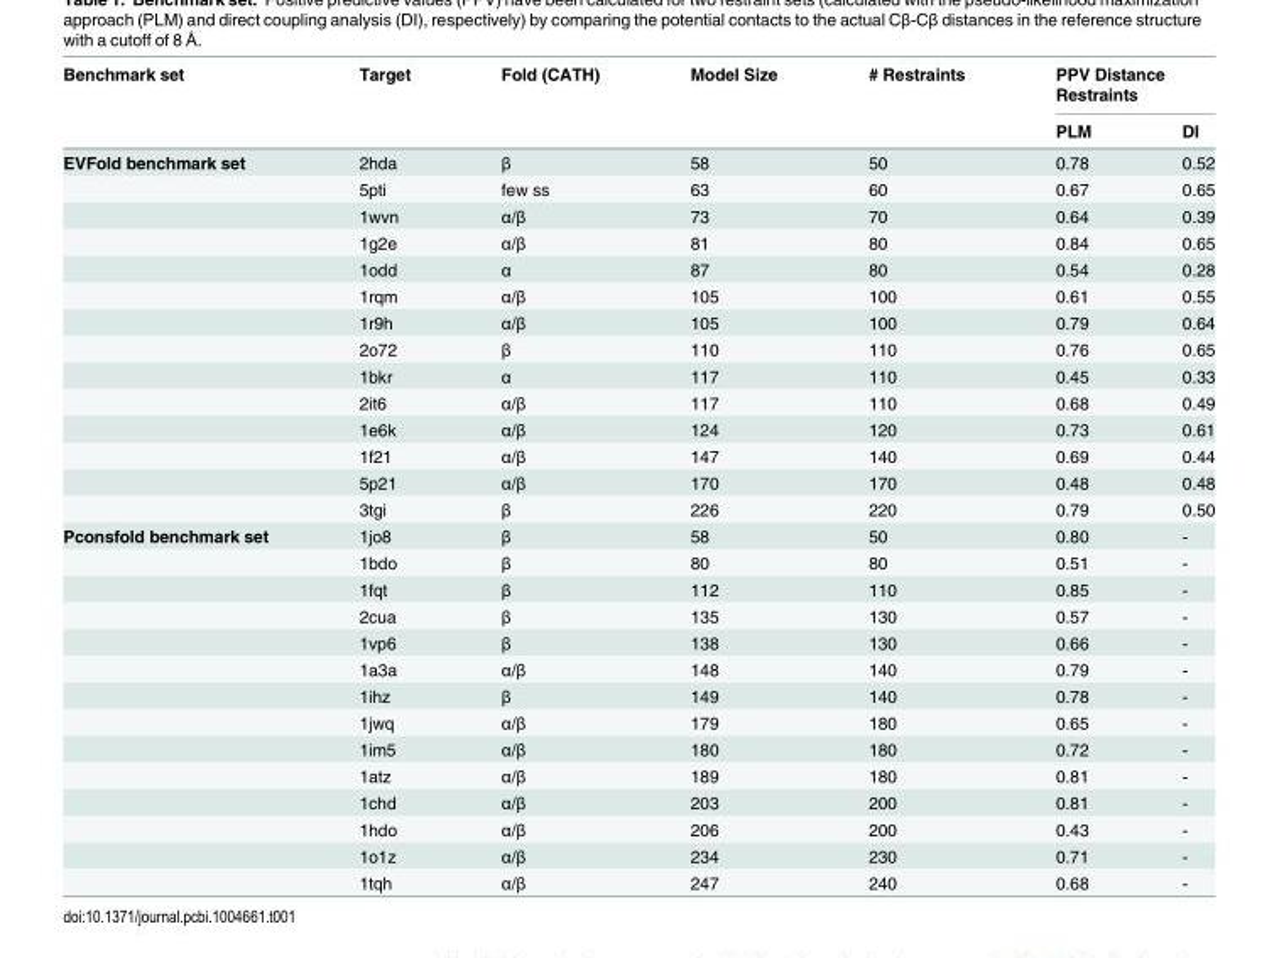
<table><thead><tr><td rowspan="2">Benchmark set</td><td rowspan="2">Target</td><td rowspan="2">Fold (CATH)</td><td rowspan="2">Model Size</td><td rowspan="2"># Restraints</td><td colspan="2">PPV Distance Restraints</td></tr><tr><td>PLM</td><td>DI</td></tr></thead><tbody><tr><td rowspan="14">EVFold benchmark set</td><td>2hda</td><td>β</td><td>58</td><td>50</td><td>0.78</td><td>0.52</td></tr><tr><td>5pti</td><td>few ss</td><td>63</td><td>60</td><td>0.67</td><td>0.65</td></tr><tr><td>1wvn</td><td>α/β</td><td>73</td><td>70</td><td>0.64</td><td>0.39</td></tr><tr><td>1g2e</td><td>α/β</td><td>81</td><td>80</td><td>0.84</td><td>0.65</td></tr><tr><td>1odd</td><td>α</td><td>87</td><td>80</td><td>0.54</td><td>0.28</td></tr><tr><td>1rqm</td><td>α/β</td><td>105</td><td>100</td><td>0.61</td><td>0.55</td></tr><tr><td>1r9h</td><td>α/β</td><td>105</td><td>100</td><td>0.79</td><td>0.64</td></tr><tr><td>2o72</td><td>β</td><td>110</td><td>110</td><td>0.76</td><td>0.65</td></tr><tr><td>1bkr</td><td>α</td><td>117</td><td>110</td><td>0.45</td><td>0.33</td></tr><tr><td>2it6</td><td>α/β</td><td>117</td><td>110</td><td>0.68</td><td>0.49</td></tr><tr><td>1e6k</td><td>α/β</td><td>124</td><td>120</td><td>0.73</td><td>0.61</td></tr><tr><td>1f21</td><td>α/β</td><td>147</td><td>140</td><td>0.69</td><td>0.44</td></tr><tr><td>5p21</td><td>α/β</td><td>170</td><td>170</td><td>0.48</td><td>0.48</td></tr><tr><td>3tgi</td><td>β</td><td>226</td><td>220</td><td>0.79</td><td>0.50</td></tr><tr><td rowspan="14">Pconsfold benchmark set</td><td>1jo8</td><td>β</td><td>58</td><td>50</td><td>0.80</td><td>-</td></tr><tr><td>1bdo</td><td>β</td><td>80</td><td>80</td><td>0.51</td><td>-</td></tr><tr><td>1fqt</td><td>β</td><td>112</td><td>110</td><td>0.85</td><td>-</td></tr><tr><td>2cua</td><td>β</td><td>135</td><td>130</td><td>0.57</td><td>-</td></tr><tr><td>1vp6</td><td>β</td><td>138</td><td>130</td><td>0.66</td><td>-</td></tr><tr><td>1a3a</td><td>α/β</td><td>148</td><td>140</td><td>0.79</td><td>-</td></tr><tr><td>1ihz</td><td>β</td><td>149</td><td>140</td><td>0.78</td><td>-</td></tr><tr><td>1jwq</td><td>α/β</td><td>179</td><td>180</td><td>0.65</td><td>-</td></tr><tr><td>1im5</td><td>α/β</td><td>180</td><td>180</td><td>0.72</td><td>-</td></tr><tr><td>1atz</td><td>α/β</td><td>189</td><td>180</td><td>0.81</td><td>-</td></tr><tr><td>1chd</td><td>α/β</td><td>203</td><td>200</td><td>0.81</td><td>-</td></tr><tr><td>1hdo</td><td>α/β</td><td>206</td><td>200</td><td>0.43</td><td>-</td></tr><tr><td>1o1z</td><td>α/β</td><td>234</td><td>230</td><td>0.71</td><td>-</td></tr><tr><td>1tqh</td><td>α/β</td><td>247</td><td>240</td><td>0.68</td><td>-</td></tr></tbody></table>